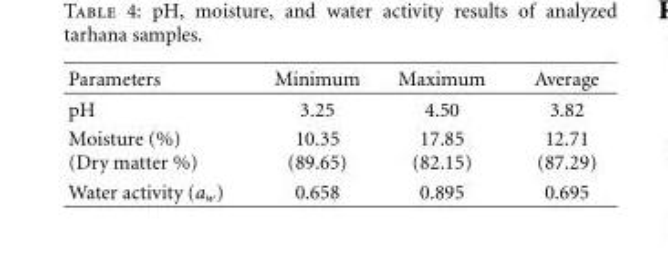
<table><thead><tr><td>Parameters</td><td>Minimum</td><td>Maximum</td><td>Average</td></tr></thead><tbody><tr><td>pH</td><td>3.25</td><td>4.50</td><td>3.82</td></tr><tr><td>Moisture (%) (Dry matter %)</td><td>10.35 (89.65)</td><td>17.85 (82.15)</td><td>12.71 (87.29)</td></tr><tr><td>Water activity (a<sub>w</sub>)</td><td>0.658</td><td>0.895</td><td>0.695</td></tr></tbody></table>